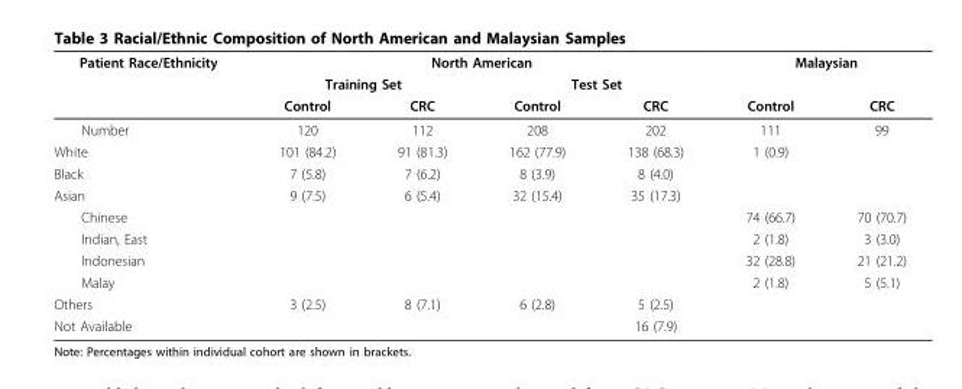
<table><thead><tr><td rowspan="3">Patient Race/Ethnicity</td><td colspan="4">North American</td><td colspan="2">Malaysian</td></tr><tr><td colspan="2">Training Set</td><td colspan="2">Test Set</td><td rowspan="2">Control</td><td rowspan="2">CRC</td></tr><tr><td>Control</td><td>CRC</td><td>Control</td><td>CRC</td></tr></thead><tbody><tr><td>Number</td><td>120</td><td>112</td><td>208</td><td>202</td><td>111</td><td>99</td></tr><tr><td>White</td><td>101 (84.2)</td><td>91 (81.3)</td><td>162 (77.9)</td><td>138 (68.3)</td><td>1 (0.9)</td><td></td></tr><tr><td>Black</td><td>7 (5.8)</td><td>7 (6.2)</td><td>8 (3.9)</td><td>8 (4.0)</td><td></td><td></td></tr><tr><td>Asian</td><td>9 (7.5)</td><td>6 (5.4)</td><td>32 (15.4)</td><td>35 (17.3)</td><td></td><td></td></tr><tr><td>Chinese</td><td></td><td></td><td></td><td></td><td>74 (66.7)</td><td>70 (70.7)</td></tr><tr><td>Indian, East</td><td></td><td></td><td></td><td></td><td>2 (1.8)</td><td>3 (3.0)</td></tr><tr><td>Indonesian</td><td></td><td></td><td></td><td></td><td>32 (28.8)</td><td>21 (21.2)</td></tr><tr><td>Malay</td><td></td><td></td><td></td><td></td><td>2 (1.8)</td><td>5 (5.1)</td></tr><tr><td>Others</td><td>3 (2.5)</td><td>8 (7.1)</td><td>6 (2.8)</td><td>5 (2.5)</td><td></td><td></td></tr><tr><td>Not Available</td><td></td><td></td><td></td><td>16 (7.9)</td><td></td><td></td></tr></tbody></table>